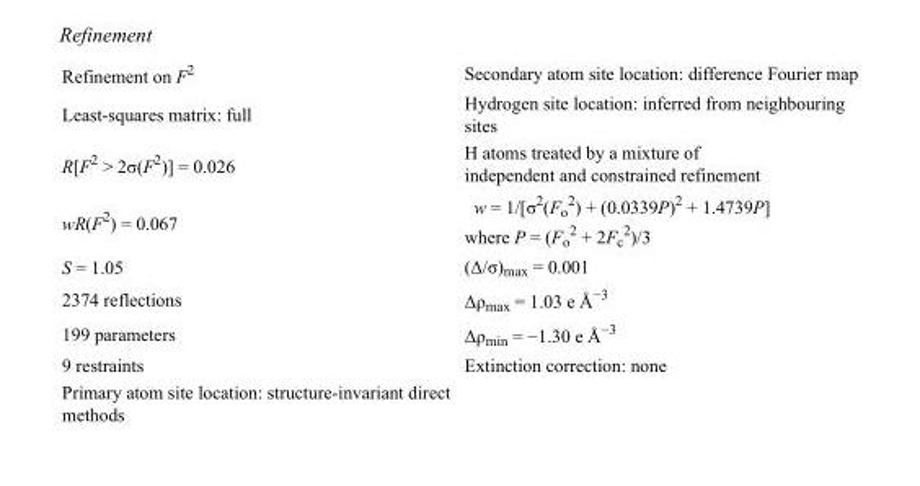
<table><tbody><tr><td>Refinement on F<sup>2</sup></td><td>Secondary atom site location: difference Fourier map</td></tr><tr><td>Least-squares matrix: full</td><td>Hydrogen site location: inferred from neighbouring sites</td></tr><tr><td>R[F<sup>2</sup> &gt; 2σ(F<sup>2</sup>)] = 0.026</td><td>H atoms treated by a mixture of independent and constrained refinement</td></tr><tr><td>wR(F<sup>2</sup>) = 0.067</td><td>w = 1/[σ<sup>2</sup>(F<sub>o</sub> <sup>2</sup>) + (0.0339P)<sup>2</sup> + 1.4739P] where P = (F<sub>o</sub> <sup>2</sup> + 2F<sub>c</sub> <sup>2</sup>)/3</td></tr><tr><td>S = 1.05</td><td>(Δ/σ)<sub>max</sub> = 0.001</td></tr><tr><td>2374 reflections</td><td>Δρ<sub>max</sub> = 1.03 e Å<sup>−3</sup></td></tr><tr><td>199 parameters</td><td>Δρ<sub>min</sub> = −1.30 e Å<sup>−3</sup></td></tr><tr><td>9 restraints</td><td>Extinction correction: none</td></tr><tr><td>Primary atom site location: structure-invariant direct methods</td><td></td></tr></tbody></table>